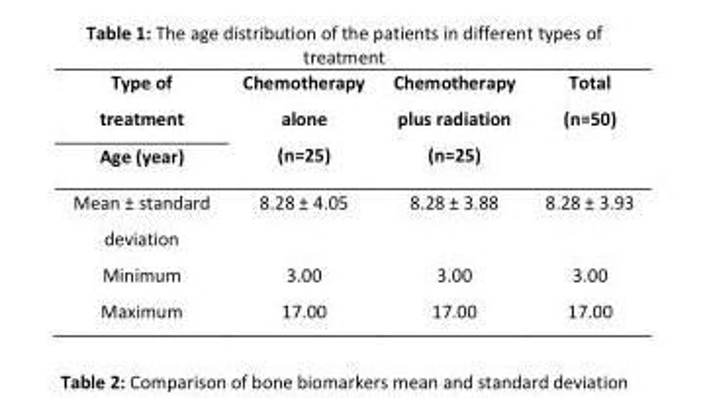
<table><thead><tr><td rowspan="2">Type of treatment Age (year)</td><td rowspan="2">Chemotherapy alone (n=25)</td><td rowspan="2">Chemotherapy plus radiation (n=25)</td><td rowspan="2">Total (n=50)</td></tr><tr></tr></thead><tbody><tr><td>Mean ± standard deviation</td><td>8.28 ± 4.05</td><td>8.28 ± 3.88</td><td>8.28 ± 3.93</td></tr><tr><td>Minimum</td><td>3.00</td><td>3.00</td><td>3.00</td></tr><tr><td>Maximum</td><td>17.00</td><td>17.00</td><td>17.00</td></tr></tbody></table>